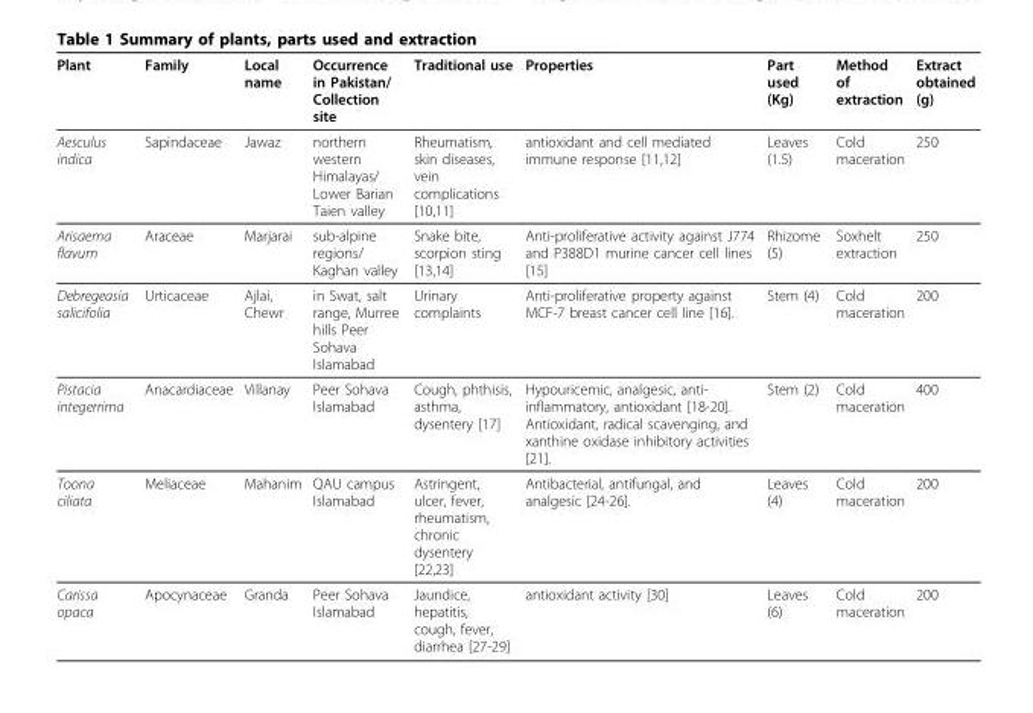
<table><thead><tr><td>Plant</td><td>Family</td><td>Local name</td><td>Occurrence in Pakistan/ Collection site</td><td>Traditional use</td><td>Properties</td><td>Part used (Kg)</td><td>Method of extraction</td><td>Extract obtained (g)</td></tr></thead><tbody><tr><td>Aesculus indica</td><td>Sapindaceae</td><td>Jawaz</td><td>northern western Himalayas/ Lower Barian Taien valley</td><td>Rheumatism, skin diseases, vein complications [10,11]</td><td>antioxidant and cell mediated immune response [11,12]</td><td>Leaves (1.5)</td><td>Cold maceration</td><td>250</td></tr><tr><td>Arisaema flavum</td><td>Araceae</td><td>Marjarai</td><td>sub-alpine regions/ Kaghan valley</td><td>Snake bite, scorpion sting [13,14]</td><td>Anti-proliferative activity against J774 and P388D1 murine cancer cell lines [15]</td><td>Rhizome (5)</td><td>Soxhelt extraction</td><td>250</td></tr><tr><td>Debregeasia salicifolia</td><td>Urticaceae</td><td>Ajlai, Chewr</td><td>in Swat, salt range, Murree hills Peer Sohava Islamabad</td><td>Urinary complaints</td><td>Anti-proliferative property against MCF-7 breast cancer cell line [16].</td><td>Stem (4)</td><td>Cold maceration</td><td>200</td></tr><tr><td>Pistacia integerrima</td><td>Anacardiaceae</td><td>Villanay</td><td>Peer Sohava Islamabad</td><td>Cough, phthisis, asthma, dysentery [17]</td><td>Hypouricemic, analgesic, anti- inflammatory, antioxidant [18-20]. Antioxidant, radical scavenging, and xanthine oxidase inhibitory activities [21].</td><td>Stem (2)</td><td>Cold maceration</td><td>400</td></tr><tr><td>Toona ciliata</td><td>Meliaceae</td><td>Mahanim</td><td>QAU campus Islamabad</td><td>Astringent, ulcer, fever, rheumatism, chronic dysentery [22,23]</td><td>Antibacterial, antifungal, and analgesic [24-26].</td><td>Leaves (4)</td><td>Cold maceration</td><td>200</td></tr><tr><td>Carissa opaca</td><td>Apocynaceae</td><td>Granda</td><td>Peer Sohava Islamabad</td><td>Jaundice, hepatitis, cough, fever, diarrhea [27-29]</td><td>antioxidant activity [30]</td><td>Leaves (6)</td><td>Cold maceration</td><td>200</td></tr></tbody></table>